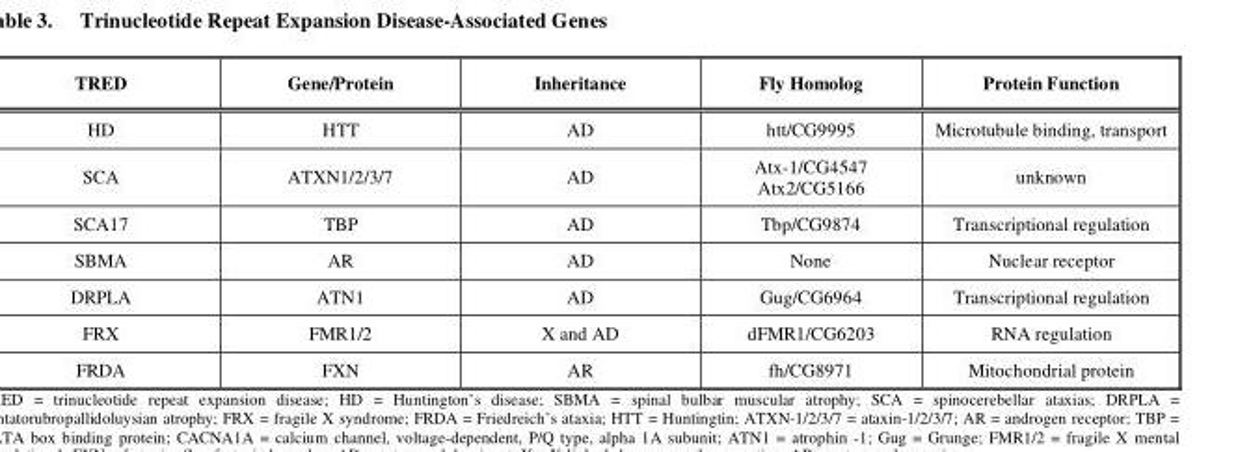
<table><thead><tr><td>TRED</td><td>Gene/Protein</td><td>Inheritance</td><td>Fly Homolog</td><td>Protein Function</td></tr></thead><tbody><tr><td>HD</td><td>HTT</td><td>AD</td><td>htt/CG9995</td><td>Microtubule binding, transport</td></tr><tr><td>SCA</td><td>ATXN1/2/3/7</td><td>AD</td><td>Atx-1/CG4547 Atx2/CG5166</td><td>unknown</td></tr><tr><td>SCA17</td><td>TBP</td><td>AD</td><td>Tbp/CG9874</td><td>Transcriptional regulation</td></tr><tr><td>SBMA</td><td>AR</td><td>AD</td><td>None</td><td>Nuclear receptor</td></tr><tr><td>DRPLA</td><td>ATN1</td><td>AD</td><td>Gug/CG6964</td><td>Transcriptional regulation</td></tr><tr><td>FRX</td><td>FMR1/2</td><td>X and AD</td><td>dFMR1/CG6203</td><td>RNA regulation</td></tr><tr><td>FRDA</td><td>FXN</td><td>AR</td><td>fh/CG8971</td><td>Mitochondrial protein</td></tr></tbody></table>